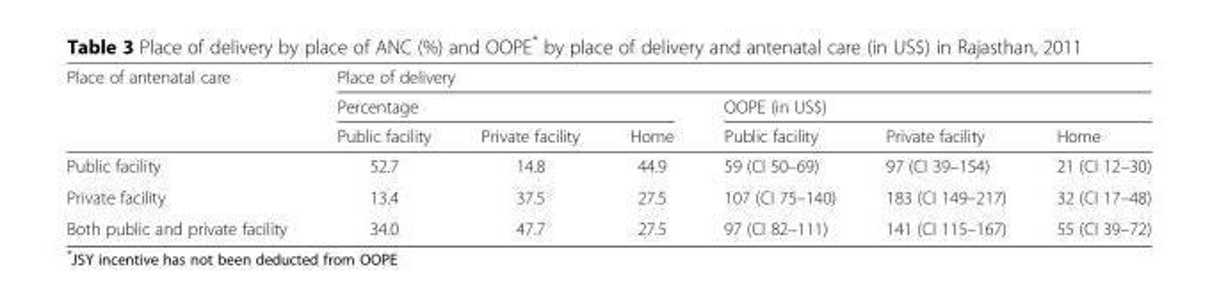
<table><thead><tr><td rowspan="3">Place of antenatal care</td><td colspan="6">Place of delivery</td></tr><tr><td colspan="3">Percentage</td><td colspan="3">OOPE (in US$)</td></tr><tr><td>Public facility</td><td>Private facility</td><td>Home</td><td>Public facility</td><td>Private facility</td><td>Home</td></tr></thead><tbody><tr><td>Public facility</td><td>52.7</td><td>14.8</td><td>44.9</td><td>59 (CI 50–69)</td><td>97 (CI 39–154)</td><td>21 (CI 12–30)</td></tr><tr><td>Private facility</td><td>13.4</td><td>37.5</td><td>27.5</td><td>107 (CI 75–140)</td><td>183 (CI 149–217)</td><td>32 (CI 17–48)</td></tr><tr><td>Both public and private facility</td><td>34.0</td><td>47.7</td><td>27.5</td><td>97 (CI 82–111)</td><td>141 (CI 115–167)</td><td>55 (CI 39–72)</td></tr></tbody></table>